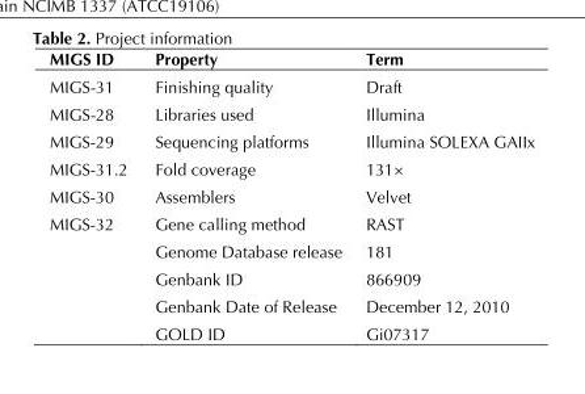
<table><thead><tr><td>MIGS ID</td><td>Property</td><td>Term</td></tr></thead><tbody><tr><td>MIGS-31</td><td>Finishing quality</td><td>Draft</td></tr><tr><td>MIGS-28</td><td>Libraries used</td><td>Illumina</td></tr><tr><td>MIGS-29</td><td>Sequencing platforms</td><td>Illumina SOLEXA GAIIx</td></tr><tr><td>MIGS-31.2</td><td>Fold coverage</td><td>131×</td></tr><tr><td>MIGS-30</td><td>Assemblers</td><td>Velvet</td></tr><tr><td rowspan="5">MIGS-32</td><td>Gene calling method</td><td>RAST</td></tr><tr><td>Genome Database release</td><td>181</td></tr><tr><td>Genbank ID</td><td>866909</td></tr><tr><td>Genbank Date of Release</td><td>December 12, 2010</td></tr><tr><td>GOLD ID</td><td>Gi07317</td></tr></tbody></table>